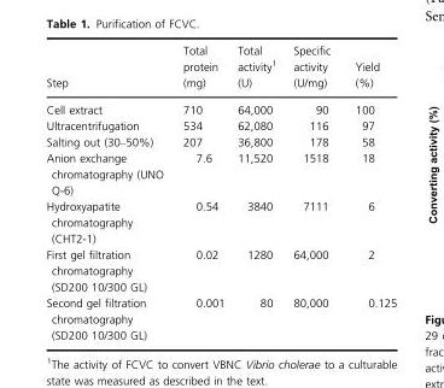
<table><thead><tr><td>Step</td><td>Total protein (mg)</td><td>Total activity<sup>1</sup> (U)</td><td>Specific activity (U/mg)</td><td>Yield (%)</td></tr></thead><tbody><tr><td>Cell extract</td><td>710</td><td>64,000</td><td>90</td><td>100</td></tr><tr><td>Ultracentrifugation</td><td>534</td><td>62,080</td><td>116</td><td>97</td></tr><tr><td>Salting out (30–50%)</td><td>207</td><td>36,800</td><td>178</td><td>58</td></tr><tr><td>Anion exchange chromatography (UNO Q-6)</td><td>7.6</td><td>11,520</td><td>1518</td><td>18</td></tr><tr><td>Hydroxyapatite chromatography (CHT2-1)</td><td>0.54</td><td>3840</td><td>7111</td><td>6</td></tr><tr><td>First gel filtration chromatography (SD200 10/300 GL)</td><td>0.02</td><td>1280</td><td>64,000</td><td>2</td></tr><tr><td>Second gel filtration chromatography (SD200 10/300 GL)</td><td>0.001</td><td>80</td><td>80,000</td><td>0.125</td></tr></tbody></table>